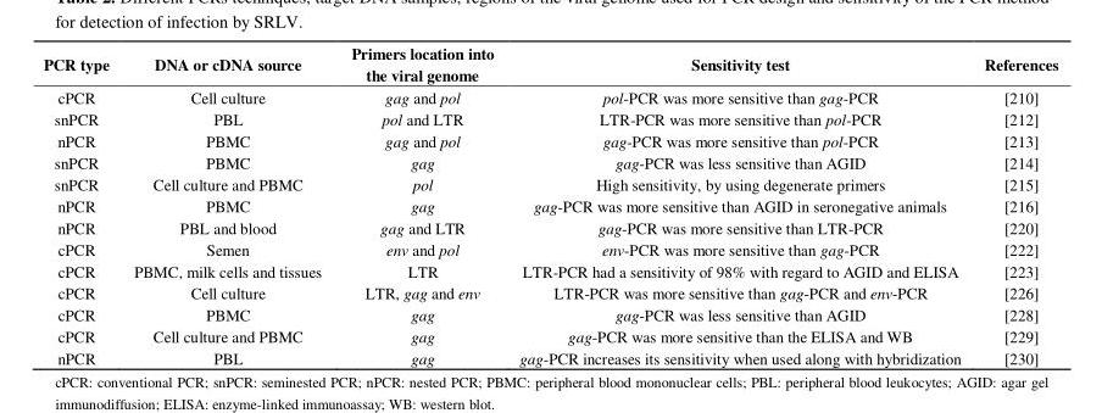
<table><thead><tr><td>PCR type</td><td>DNA or cDNA source</td><td>Primers location into the viral genome</td><td>Sensitivity test</td><td>References</td></tr></thead><tbody><tr><td>cPCR</td><td>Cell culture</td><td>gag and pol</td><td>pol-PCR was more sensitive than gag-PCR</td><td>[210]</td></tr><tr><td>snPCR</td><td>PBL</td><td>pol and LTR</td><td>LTR-PCR was more sensitive than pol-PCR</td><td>[212]</td></tr><tr><td>nPCR</td><td>PBMC</td><td>gag and pol</td><td>gag-PCR was more sensitive than pol-PCR</td><td>[213]</td></tr><tr><td>snPCR</td><td>PBMC</td><td>gag</td><td>gag-PCR was less sensitive than AGID</td><td>[214]</td></tr><tr><td>snPCR</td><td>Cell culture and PBMC</td><td>pol</td><td>High sensitivity, by using degenerate primers</td><td>[215]</td></tr><tr><td>nPCR</td><td>PBMC</td><td>gag</td><td>gag-PCR was more sensitive than AGID in seronegative animals</td><td>[216]</td></tr><tr><td>nPCR</td><td>PBL and blood</td><td>gag and LTR</td><td>gag-PCR was more sensitive than LTR-PCR</td><td>[220]</td></tr><tr><td>cPCR</td><td>Semen</td><td>env and pol</td><td>env-PCR was more sensitive than gag-PCR</td><td>[222]</td></tr><tr><td>cPCR</td><td>PBMC, milk cells and tissues</td><td>LTR</td><td>LTR-PCR had a sensitivity of 98% with regard to AGID and ELISA</td><td>[223]</td></tr><tr><td>cPCR</td><td>Cell culture</td><td>LTR, gag and env</td><td>LTR-PCR was more sensitive than gag-PCR and env-PCR</td><td>[226]</td></tr><tr><td>cPCR</td><td>PBMC</td><td>gag</td><td>gag-PCR was less sensitive than AGID</td><td>[228]</td></tr><tr><td>cPCR</td><td>Cell culture and PBMC</td><td>gag</td><td>gag-PCR was more sensitive than the ELISA and WB</td><td>[229]</td></tr><tr><td>nPCR</td><td>PBL</td><td>gag</td><td>gag-PCR increases its sensitivity when used along with hybridization</td><td>[230]</td></tr></tbody></table>